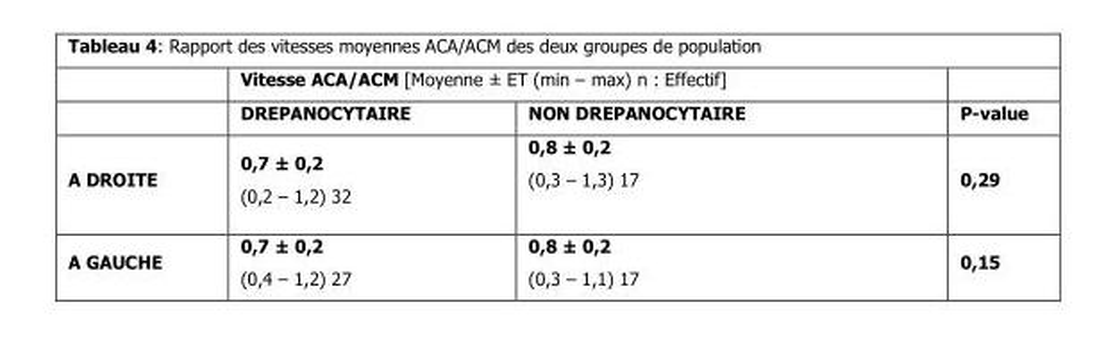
<table><thead><tr><td rowspan="2"></td><td colspan="2">Vitesse ACA/ACM [Moyenne ± ET (min – max) n : Effectif]</td><td rowspan="2">P-value</td></tr><tr><td>DREPANOCYTAIRE</td><td>NON DREPANOCYTAIRE</td></tr></thead><tbody><tr><td>A DROITE</td><td>0,7 ± 0,2 (0,2 – 1,2) 32</td><td>0,8 ± 0,2 (0,3 – 1,3) 17</td><td>0,29</td></tr><tr><td>A GAUCHE</td><td>0,7 ± 0,2 (0,4 – 1,2) 27</td><td>0,8 ± 0,2 (0,3 – 1,1) 17</td><td>0,15</td></tr></tbody></table>